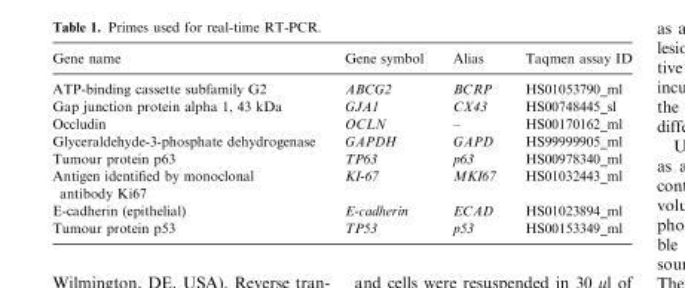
<table><thead><tr><td>Gene name</td><td>Gene symbol</td><td>Alias</td><td>Taqmen assay ID</td></tr></thead><tbody><tr><td>ATP-binding cassette subfamily G2</td><td>ABCG2</td><td>BCRP</td><td>HS01053790_ml</td></tr><tr><td>Gap junction protein alpha 1, 43 kDa</td><td>GJA1</td><td>CX43</td><td>HS00748445_sl</td></tr><tr><td>Occludin</td><td>OCLN</td><td>–</td><td>HS00170162_ml</td></tr><tr><td>Glyceraldehyde-3-phosphate dehydrogenase</td><td>GAPDH</td><td>GAPD</td><td>HS99999905_ml</td></tr><tr><td>Tumour protein p63</td><td>TP63</td><td>p63</td><td>HS00978340_ml</td></tr><tr><td>Antigen identified by monoclonal antibody Ki67</td><td>KI-67</td><td>MKI67</td><td>HS01032443_ml</td></tr><tr><td>E-cadherin (epithelial)</td><td>E-cadherin</td><td>ECAD</td><td>HS01023894_ml</td></tr><tr><td>Tumour protein p53</td><td>TP53</td><td>p53</td><td>HS00153349_ml</td></tr></tbody></table>